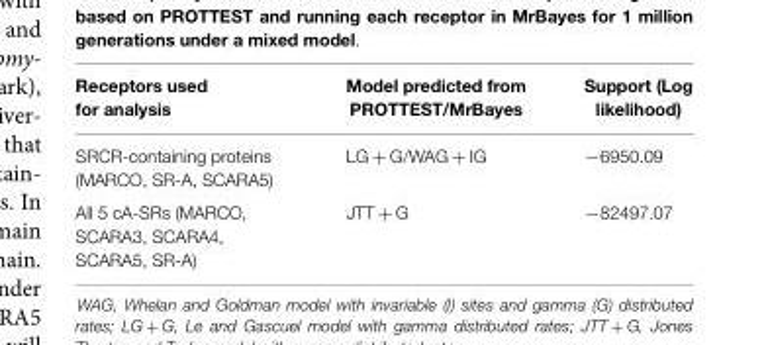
<table><thead><tr><td>Receptors used for analysis</td><td>Model predicted from PROTTEST/MrBayes</td><td>Support (Log likelihood)</td></tr></thead><tbody><tr><td>SRCR-containing proteins (MARCO, SR-A, SCARA5)</td><td>LG + G/WAG + IG</td><td>−6950.09</td></tr><tr><td>All 5 cA-SRs (MARCO, SCARA3, SCARA4, SCARA5, SR-A)</td><td>JTT + G</td><td>−82497.07</td></tr></tbody></table>